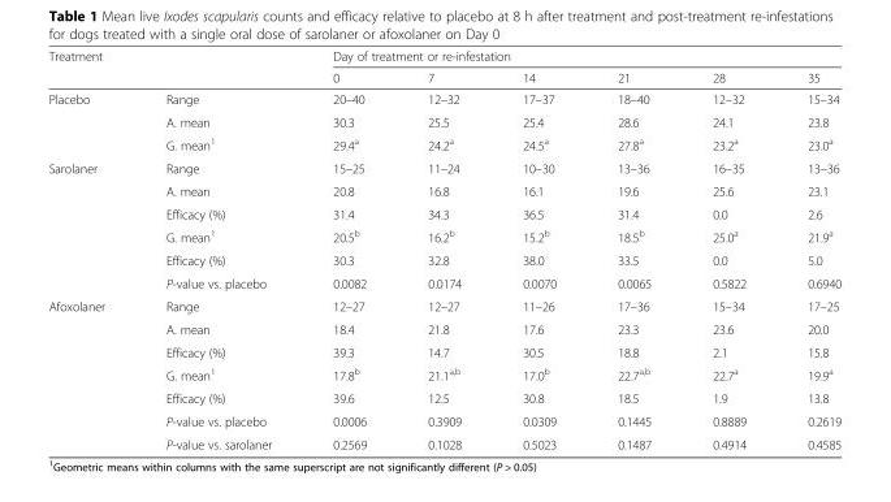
<table><thead><tr><td rowspan="2">Treatment</td><td rowspan="2"></td><td colspan="6">Day of treatment or re-infestation</td></tr><tr><td>0</td><td>7</td><td>14</td><td>21</td><td>28</td><td>35</td></tr></thead><tbody><tr><td rowspan="3">Placebo</td><td>Range</td><td>20–40</td><td>12–32</td><td>17–37</td><td>18–40</td><td>12–32</td><td>15–34</td></tr><tr><td>A. mean</td><td>30.3</td><td>25.5</td><td>25.4</td><td>28.6</td><td>24.1</td><td>23.8</td></tr><tr><td>G. mean<sup>1</sup></td><td>29.4<sup>a</sup></td><td>24.2<sup>a</sup></td><td>24.5<sup>a</sup></td><td>27.8<sup>a</sup></td><td>23.2<sup>a</sup></td><td>23.0<sup>a</sup></td></tr><tr><td rowspan="6">Sarolaner</td><td>Range</td><td>15–25</td><td>11–24</td><td>10–30</td><td>13–36</td><td>16–35</td><td>13–36</td></tr><tr><td>A. mean</td><td>20.8</td><td>16.8</td><td>16.1</td><td>19.6</td><td>25.6</td><td>23.1</td></tr><tr><td>Efficacy (%)</td><td>31.4</td><td>34.3</td><td>36.5</td><td>31.4</td><td>0.0</td><td>2.6</td></tr><tr><td>G. mean<sup>1</sup></td><td>20.5<sup>b</sup></td><td>16.2<sup>b</sup></td><td>15.2<sup>b</sup></td><td>18.5<sup>b</sup></td><td>25.0<sup>a</sup></td><td>21.9<sup>a</sup></td></tr><tr><td>Efficacy (%)</td><td>30.3</td><td>32.8</td><td>38.0</td><td>33.5</td><td>0.0</td><td>5.0</td></tr><tr><td>P-value vs. placebo</td><td>0.0082</td><td>0.0174</td><td>0.0070</td><td>0.0065</td><td>0.5822</td><td>0.6940</td></tr><tr><td rowspan="7">Afoxolaner</td><td>Range</td><td>12–27</td><td>12–27</td><td>11–26</td><td>17–36</td><td>15–34</td><td>17–25</td></tr><tr><td>A. mean</td><td>18.4</td><td>21.8</td><td>17.6</td><td>23.3</td><td>23.6</td><td>20.0</td></tr><tr><td>Efficacy (%)</td><td>39.3</td><td>14.7</td><td>30.5</td><td>18.8</td><td>2.1</td><td>15.8</td></tr><tr><td>G. mean<sup>1</sup></td><td>17.8<sup>b</sup></td><td>21.1<sup>a,b</sup></td><td>17.0<sup>b</sup></td><td>22.7<sup>a,b</sup></td><td>22.7<sup>a</sup></td><td>19.9<sup>a</sup></td></tr><tr><td>Efficacy (%)</td><td>39.6</td><td>12.5</td><td>30.8</td><td>18.5</td><td>1.9</td><td>13.8</td></tr><tr><td>P-value vs. placebo</td><td>0.0006</td><td>0.3909</td><td>0.0309</td><td>0.1445</td><td>0.8889</td><td>0.2619</td></tr><tr><td>P-value vs. sarolaner</td><td>0.2569</td><td>0.1028</td><td>0.5023</td><td>0.1487</td><td>0.4914</td><td>0.4585</td></tr></tbody></table>